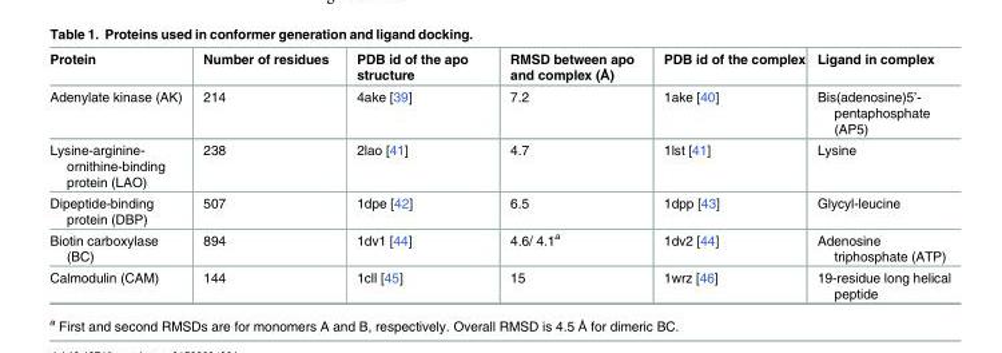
<table><thead><tr><td>Protein</td><td>Number of residues</td><td>PDB id of the apo structure</td><td>RMSD between apo and complex (Å)</td><td>PDB id of the complex</td><td>Ligand in complex</td></tr></thead><tbody><tr><td>Adenylate kinase (AK)</td><td>214</td><td>4ake [39]</td><td>7.2</td><td>1ake [40]</td><td>Bis(adenosine)5’- pentaphosphate (AP5)</td></tr><tr><td>Lysine-arginine- ornithine-binding protein (LAO)</td><td>238</td><td>2lao [41]</td><td>4.7</td><td>1lst [41]</td><td>Lysine</td></tr><tr><td>Dipeptide-binding protein (DBP)</td><td>507</td><td>1dpe [42]</td><td>6.5</td><td>1dpp [43]</td><td>Glycyl-leucine</td></tr><tr><td>Biotin carboxylase (BC)</td><td>894</td><td>1dv1 [44]</td><td>4.6/ 4.1<sup>a</sup></td><td>1dv2 [44]</td><td>Adenosine triphosphate (ATP)</td></tr><tr><td>Calmodulin (CAM)</td><td>144</td><td>1cll [45]</td><td>15</td><td>1wrz [46]</td><td>19-residue long helical peptide</td></tr></tbody></table>